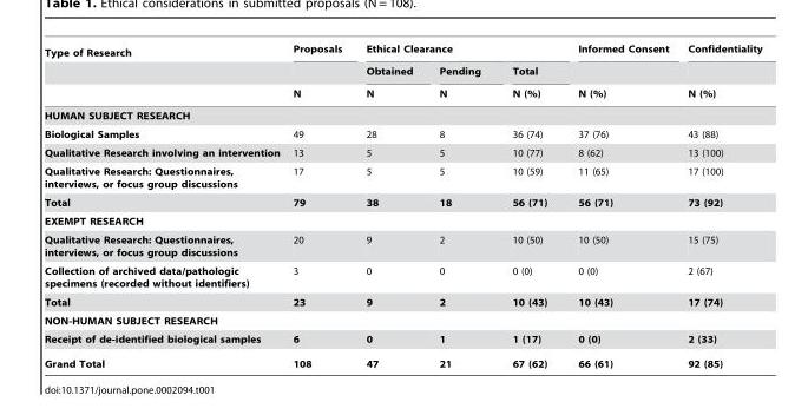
<table><thead><tr><td rowspan="3">Type of Research</td><td rowspan="3">Proposals N</td><td colspan="3">Ethical Clearance</td><td rowspan="3">Informed Consent N (%)</td><td rowspan="3">Confidentiality N (%)</td></tr><tr><td rowspan="2">Obtained N</td><td rowspan="2">Pending N</td><td rowspan="2">Total N (%)</td></tr><tr></tr></thead><tbody><tr><td colspan="7">HUMAN SUBJECT RESEARCH</td></tr><tr><td>Biological Samples</td><td>49</td><td>28</td><td>8</td><td>36 (74)</td><td>37 (76)</td><td>43 (88)</td></tr><tr><td>Qualitative Research involving an intervention</td><td>13</td><td>5</td><td>5</td><td>10 (77)</td><td>8 (62)</td><td>13 (100)</td></tr><tr><td>Qualitative Research: Questionnaires, interviews, or focus group discussions</td><td>17</td><td>5</td><td>5</td><td>10 (59)</td><td>11 (65)</td><td>17 (100)</td></tr><tr><td>Total</td><td>79</td><td>38</td><td>18</td><td>56 (71)</td><td>56 (71)</td><td>73 (92)</td></tr><tr><td colspan="7">EXEMPT RESEARCH</td></tr><tr><td>Qualitative Research: Questionnaires, interviews, or focus group discussions</td><td>20</td><td>9</td><td>2</td><td>10 (50)</td><td>10 (50)</td><td>15 (75)</td></tr><tr><td>Collection of archived data/pathologic specimens (recorded without identifiers)</td><td>3</td><td>0</td><td>0</td><td>0 (0)</td><td>0 (0)</td><td>2 (67)</td></tr><tr><td>Total</td><td>23</td><td>9</td><td>2</td><td>10 (43)</td><td>10 (43)</td><td>17 (74)</td></tr><tr><td colspan="7">NON-HUMAN SUBJECT RESEARCH</td></tr><tr><td>Receipt of de-identified biological samples</td><td>6</td><td>0</td><td>1</td><td>1 (17)</td><td>0 (0)</td><td>2 (33)</td></tr><tr><td>Grand Total</td><td>108</td><td>47</td><td>21</td><td>67 (62)</td><td>66 (61)</td><td>92 (85)</td></tr></tbody></table>